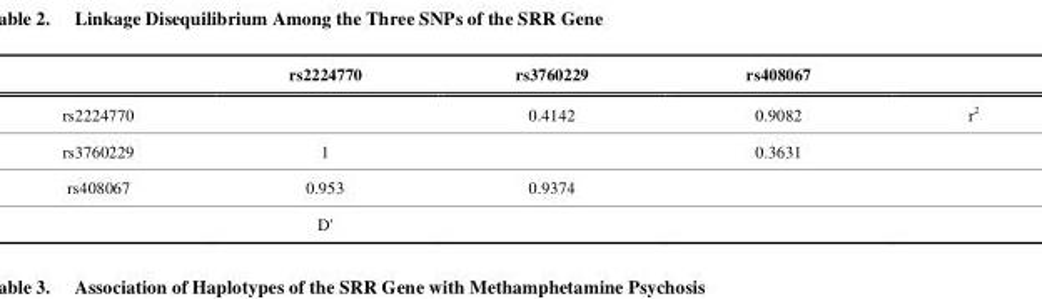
<table><thead><tr><td></td><td>rs2224770</td><td>rs3760229</td><td>rs408067</td><td></td></tr></thead><tbody><tr><td>rs2224770</td><td></td><td>0.4142</td><td>0.9082</td><td>r<sup>2</sup></td></tr><tr><td>rs3760229</td><td>1</td><td></td><td>0.3631</td><td></td></tr><tr><td rowspan="2">rs408067</td><td>0.953</td><td>0.9374</td><td></td><td></td></tr><tr><td>D&#x27;</td><td></td><td></td><td></td></tr></tbody></table>